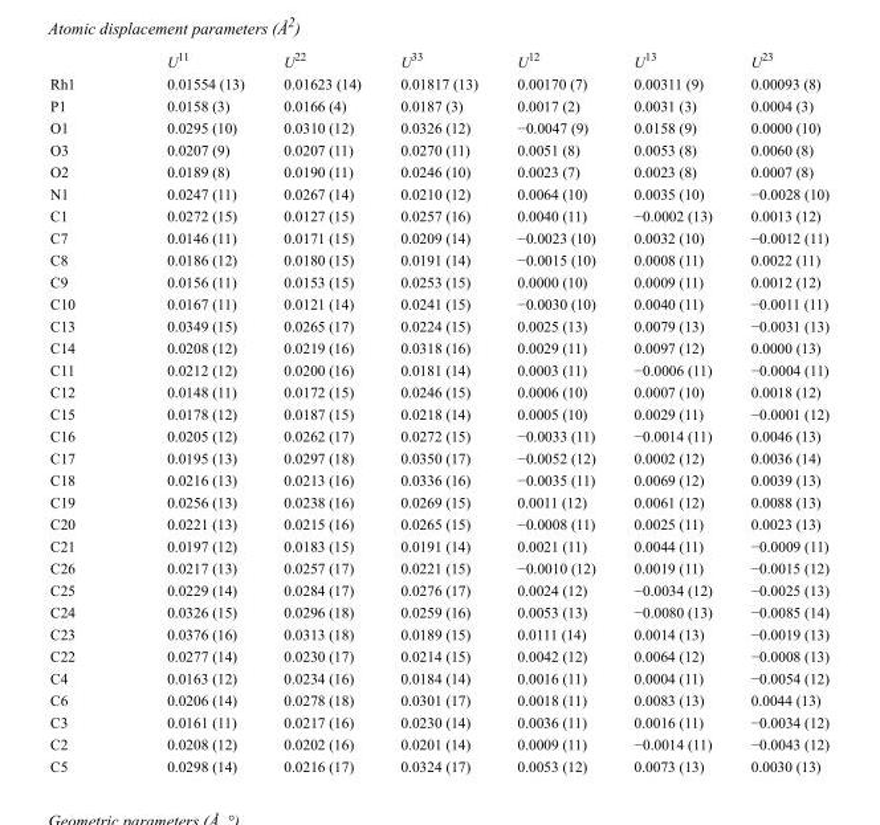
<table><thead><tr><td></td><td>U<sup>11</sup></td><td>U<sup>22</sup></td><td>U<sup>33</sup></td><td>U<sup>12</sup></td><td>U<sup>13</sup></td><td>U<sup>23</sup></td></tr></thead><tbody><tr><td>Rh1</td><td>0.01554 (13)</td><td>0.01623 (14)</td><td>0.01817 (13)</td><td>0.00170 (7)</td><td>0.00311 (9)</td><td>0.00093 (8)</td></tr><tr><td>P1</td><td>0.0158 (3)</td><td>0.0166 (4)</td><td>0.0187 (3)</td><td>0.0017 (2)</td><td>0.0031 (3)</td><td>0.0004 (3)</td></tr><tr><td>O1</td><td>0.0295 (10)</td><td>0.0310 (12)</td><td>0.0326 (12)</td><td>−0.0047 (9)</td><td>0.0158 (9)</td><td>0.0000 (10)</td></tr><tr><td>O3</td><td>0.0207 (9)</td><td>0.0207 (11)</td><td>0.0270 (11)</td><td>0.0051 (8)</td><td>0.0053 (8)</td><td>0.0060 (8)</td></tr><tr><td>O2</td><td>0.0189 (8)</td><td>0.0190 (11)</td><td>0.0246 (10)</td><td>0.0023 (7)</td><td>0.0023 (8)</td><td>0.0007 (8)</td></tr><tr><td>N1</td><td>0.0247 (11)</td><td>0.0267 (14)</td><td>0.0210 (12)</td><td>0.0064 (10)</td><td>0.0035 (10)</td><td>−0.0028 (10)</td></tr><tr><td>C1</td><td>0.0272 (15)</td><td>0.0127 (15)</td><td>0.0257 (16)</td><td>0.0040 (11)</td><td>−0.0002 (13)</td><td>0.0013 (12)</td></tr><tr><td>C7</td><td>0.0146 (11)</td><td>0.0171 (15)</td><td>0.0209 (14)</td><td>−0.0023 (10)</td><td>0.0032 (10)</td><td>−0.0012 (11)</td></tr><tr><td>C8</td><td>0.0186 (12)</td><td>0.0180 (15)</td><td>0.0191 (14)</td><td>−0.0015 (10)</td><td>0.0008 (11)</td><td>0.0022 (11)</td></tr><tr><td>C9</td><td>0.0156 (11)</td><td>0.0153 (15)</td><td>0.0253 (15)</td><td>0.0000 (10)</td><td>0.0009 (11)</td><td>0.0012 (12)</td></tr><tr><td>C10</td><td>0.0167 (11)</td><td>0.0121 (14)</td><td>0.0241 (15)</td><td>−0.0030 (10)</td><td>0.0040 (11)</td><td>−0.0011 (11)</td></tr><tr><td>C13</td><td>0.0349 (15)</td><td>0.0265 (17)</td><td>0.0224 (15)</td><td>0.0025 (13)</td><td>0.0079 (13)</td><td>−0.0031 (13)</td></tr><tr><td>C14</td><td>0.0208 (12)</td><td>0.0219 (16)</td><td>0.0318 (16)</td><td>0.0029 (11)</td><td>0.0097 (12)</td><td>0.0000 (13)</td></tr><tr><td>C11</td><td>0.0212 (12)</td><td>0.0200 (16)</td><td>0.0181 (14)</td><td>0.0003 (11)</td><td>−0.0006 (11)</td><td>−0.0004 (11)</td></tr><tr><td>C12</td><td>0.0148 (11)</td><td>0.0172 (15)</td><td>0.0246 (15)</td><td>0.0006 (10)</td><td>0.0007 (10)</td><td>0.0018 (12)</td></tr><tr><td>C15</td><td>0.0178 (12)</td><td>0.0187 (15)</td><td>0.0218 (14)</td><td>0.0005 (10)</td><td>0.0029 (11)</td><td>−0.0001 (12)</td></tr><tr><td>C16</td><td>0.0205 (12)</td><td>0.0262 (17)</td><td>0.0272 (15)</td><td>−0.0033 (11)</td><td>−0.0014 (11)</td><td>0.0046 (13)</td></tr><tr><td>C17</td><td>0.0195 (13)</td><td>0.0297 (18)</td><td>0.0350 (17)</td><td>−0.0052 (12)</td><td>0.0002 (12)</td><td>0.0036 (14)</td></tr><tr><td>C18</td><td>0.0216 (13)</td><td>0.0213 (16)</td><td>0.0336 (16)</td><td>−0.0035 (11)</td><td>0.0069 (12)</td><td>0.0039 (13)</td></tr><tr><td>C19</td><td>0.0256 (13)</td><td>0.0238 (16)</td><td>0.0269 (15)</td><td>0.0011 (12)</td><td>0.0061 (12)</td><td>0.0088 (13)</td></tr><tr><td>C20</td><td>0.0221 (13)</td><td>0.0215 (16)</td><td>0.0265 (15)</td><td>−0.0008 (11)</td><td>0.0025 (11)</td><td>0.0023 (13)</td></tr><tr><td>C21</td><td>0.0197 (12)</td><td>0.0183 (15)</td><td>0.0191 (14)</td><td>0.0021 (11)</td><td>0.0044 (11)</td><td>−0.0009 (11)</td></tr><tr><td>C26</td><td>0.0217 (13)</td><td>0.0257 (17)</td><td>0.0221 (15)</td><td>−0.0010 (12)</td><td>0.0019 (11)</td><td>−0.0015 (12)</td></tr><tr><td>C25</td><td>0.0229 (14)</td><td>0.0284 (17)</td><td>0.0276 (17)</td><td>0.0024 (12)</td><td>−0.0034 (12)</td><td>−0.0025 (13)</td></tr><tr><td>C24</td><td>0.0326 (15)</td><td>0.0296 (18)</td><td>0.0259 (16)</td><td>0.0053 (13)</td><td>−0.0080 (13)</td><td>−0.0085 (14)</td></tr><tr><td>C23</td><td>0.0376 (16)</td><td>0.0313 (18)</td><td>0.0189 (15)</td><td>0.0111 (14)</td><td>0.0014 (13)</td><td>−0.0019 (13)</td></tr><tr><td>C22</td><td>0.0277 (14)</td><td>0.0230 (17)</td><td>0.0214 (15)</td><td>0.0042 (12)</td><td>0.0064 (12)</td><td>−0.0008 (13)</td></tr><tr><td>C4</td><td>0.0163 (12)</td><td>0.0234 (16)</td><td>0.0184 (14)</td><td>0.0016 (11)</td><td>0.0004 (11)</td><td>−0.0054 (12)</td></tr><tr><td>C6</td><td>0.0206 (14)</td><td>0.0278 (18)</td><td>0.0301 (17)</td><td>0.0018 (11)</td><td>0.0083 (13)</td><td>0.0044 (13)</td></tr><tr><td>C3</td><td>0.0161 (11)</td><td>0.0217 (16)</td><td>0.0230 (14)</td><td>0.0036 (11)</td><td>0.0016 (11)</td><td>−0.0034 (12)</td></tr><tr><td>C2</td><td>0.0208 (12)</td><td>0.0202 (16)</td><td>0.0201 (14)</td><td>0.0009 (11)</td><td>−0.0014 (11)</td><td>−0.0043 (12)</td></tr><tr><td>C5</td><td>0.0298 (14)</td><td>0.0216 (17)</td><td>0.0324 (17)</td><td>0.0053 (12)</td><td>0.0073 (13)</td><td>0.0030 (13)</td></tr></tbody></table>